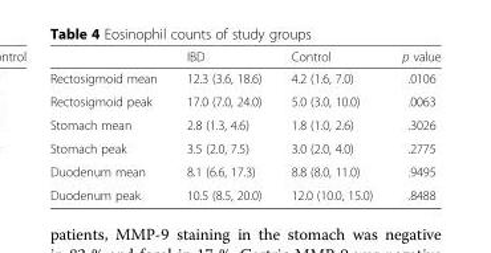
<table><thead><tr><td></td><td>IBD</td><td>Control</td><td>p value</td></tr></thead><tbody><tr><td>Rectosigmoid mean</td><td>12.3 (3.6, 18.6)</td><td>4.2 (1.6, 7.0)</td><td>.0106</td></tr><tr><td>Rectosigmoid peak</td><td>17.0 (7.0, 24.0)</td><td>5.0 (3.0, 10.0)</td><td>.0063</td></tr><tr><td>Stomach mean</td><td>2.8 (1.3, 4.6)</td><td>1.8 (1.0, 2.6)</td><td>.3026</td></tr><tr><td>Stomach peak</td><td>3.5 (2.0, 7.5)</td><td>3.0 (2.0, 4.0)</td><td>.2775</td></tr><tr><td>Duodenum mean</td><td>8.1 (6.6, 17.3)</td><td>8.8 (8.0, 11.0)</td><td>.9495</td></tr><tr><td>Duodenum peak</td><td>10.5 (8.5, 20.0)</td><td>12.0 (10.0, 15.0)</td><td>.8488</td></tr></tbody></table>